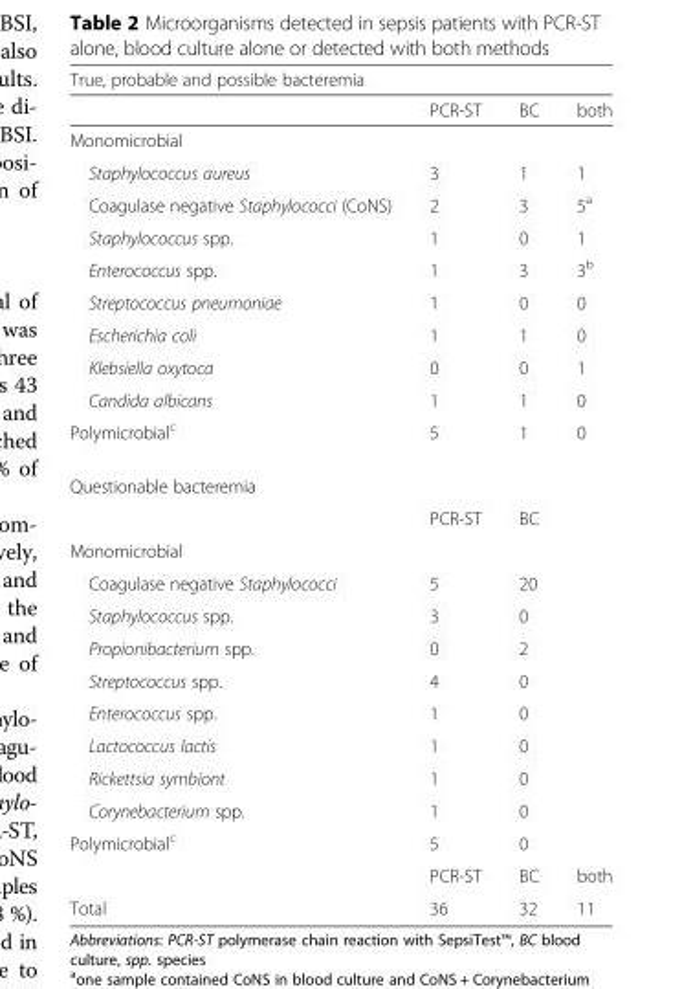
<table><thead><tr><td colspan="4">True, probable and possible bacteremia</td></tr><tr><td></td><td>PCR-ST</td><td>BC</td><td>both</td></tr></thead><tbody><tr><td colspan="4">Monomicrobial</td></tr><tr><td>Staphylococcus aureus</td><td>3</td><td>1</td><td>1</td></tr><tr><td>Coagulase negative Staphylococci (CoNS)</td><td>2</td><td>3</td><td>5<sup>a</sup></td></tr><tr><td>Staphylococcus spp.</td><td>1</td><td>0</td><td>1</td></tr><tr><td>Enterococcus spp.</td><td>1</td><td>3</td><td>3<sup>b</sup></td></tr><tr><td>Streptococcus pneumoniae</td><td>1</td><td>0</td><td>0</td></tr><tr><td>Escherichia coli</td><td>1</td><td>1</td><td>0</td></tr><tr><td>Klebsiella oxytoca</td><td>0</td><td>0</td><td>1</td></tr><tr><td>Candida albicans</td><td>1</td><td>1</td><td>0</td></tr><tr><td>Polymicrobial<sup>c</sup></td><td>5</td><td>1</td><td>0</td></tr><tr><td colspan="4">Questionable bacteremia</td></tr><tr><td></td><td>PCR-ST</td><td>BC</td><td></td></tr><tr><td colspan="4">Monomicrobial</td></tr><tr><td>Coagulase negative Staphylococci</td><td>5</td><td>20</td><td></td></tr><tr><td>Staphylococcus spp.</td><td>3</td><td>0</td><td></td></tr><tr><td>Propionibacterium spp.</td><td>0</td><td>2</td><td></td></tr><tr><td>Streptococcus spp.</td><td>4</td><td>0</td><td></td></tr><tr><td>Enterococcus spp.</td><td>1</td><td>0</td><td></td></tr><tr><td>Lactococcus lactis</td><td>1</td><td>0</td><td></td></tr><tr><td>Rickettsia symbiont</td><td>1</td><td>0</td><td></td></tr><tr><td>Corynebacterium spp.</td><td>1</td><td>0</td><td></td></tr><tr><td rowspan="2">Polymicrobial<sup>c</sup></td><td>5</td><td>0</td><td></td></tr><tr><td>PCR-ST</td><td>BC</td><td>both</td></tr><tr><td>Total</td><td>36</td><td>32</td><td>11</td></tr></tbody></table>